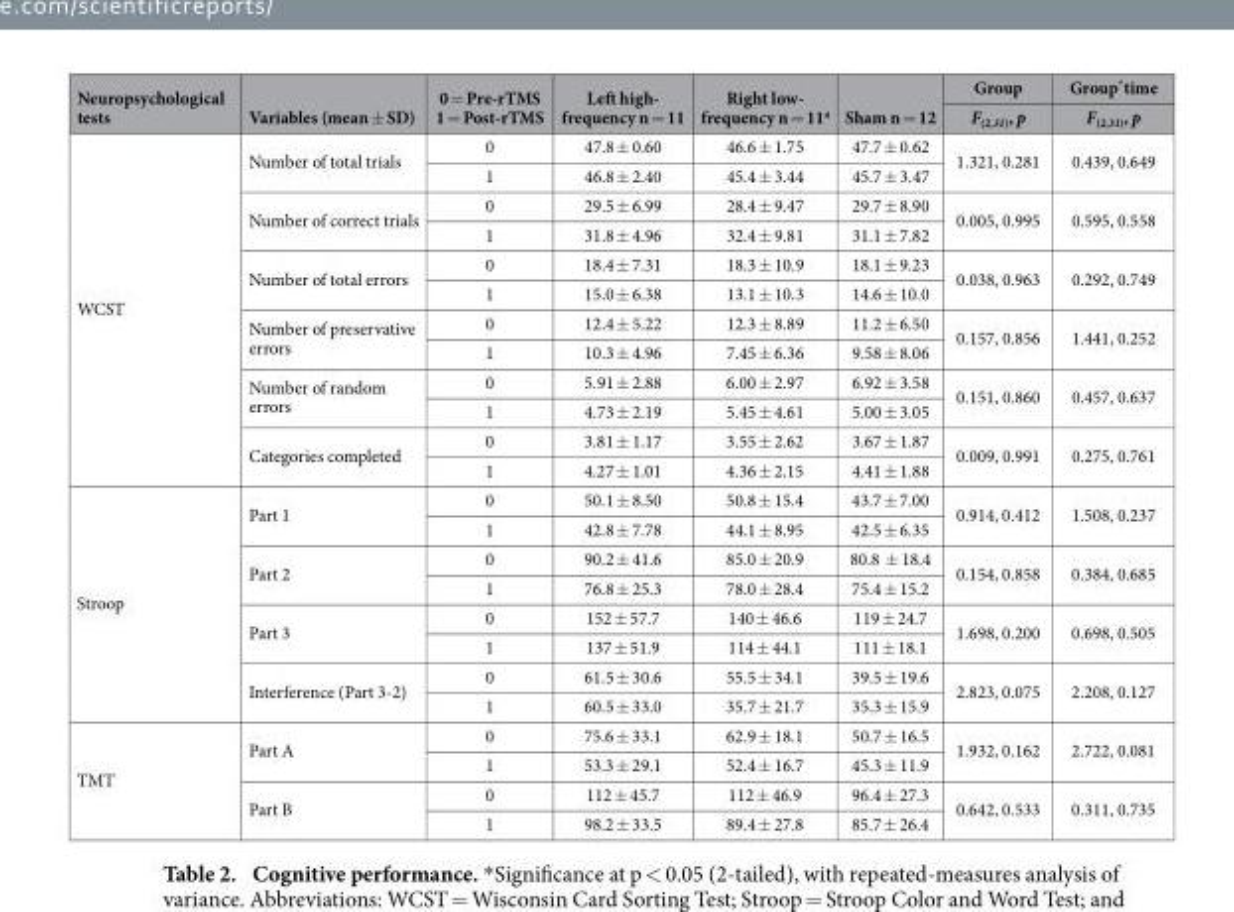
<table><thead><tr><td rowspan="2">Neuropsychological tests</td><td rowspan="2">Variables (mean ± SD)</td><td rowspan="2">0 = Pre-rTMS 1 = Post-rTMS</td><td rowspan="2">Left high- frequency n = 11</td><td rowspan="2">Right low- frequency n = 11<sup>a</sup></td><td rowspan="2">Sham n = 12</td><td rowspan="2">Group F<sub>(2,31)</sub>, p</td><td rowspan="2">Group*time F<sub>(2,31)</sub>, p</td></tr><tr></tr></thead><tbody><tr><td rowspan="12">WCST</td><td rowspan="2">Number of total trials</td><td>0</td><td>47.8 ± 0.60</td><td>46.6 ± 1.75</td><td>47.7 ± 0.62</td><td rowspan="2">1.321, 0.281</td><td rowspan="2">0.439, 0.649</td></tr><tr><td>1</td><td>46.8 ± 2.40</td><td>45.4 ± 3.44</td><td>45.7 ± 3.47</td></tr><tr><td rowspan="2">Number of correct trials</td><td>0</td><td>29.5 ± 6.99</td><td>28.4 ± 9.47</td><td>29.7 ± 8.90</td><td rowspan="2">0.005, 0.995</td><td rowspan="2">0.595, 0.558</td></tr><tr><td>1</td><td>31.8 ± 4.96</td><td>32.4 ± 9.81</td><td>31.1 ± 7.82</td></tr><tr><td rowspan="2">Number of total errors</td><td>0</td><td>18.4 ± 7.31</td><td>18.3 ± 10.9</td><td>18.1 ± 9.23</td><td rowspan="2">0.038, 0.963</td><td rowspan="2">0.292, 0.749</td></tr><tr><td>1</td><td>15.0 ± 6.38</td><td>13.1 ± 10.3</td><td>14.6 ± 10.0</td></tr><tr><td rowspan="2">Number of preservative errors</td><td>0</td><td>12.4 ± 5.22</td><td>12.3 ± 8.89</td><td>11.2 ± 6.50</td><td rowspan="2">0.157, 0.856</td><td rowspan="2">1.441, 0.252</td></tr><tr><td>1</td><td>10.3 ± 4.96</td><td>7.45 ± 6.36</td><td>9.58 ± 8.06</td></tr><tr><td rowspan="2">Number of random errors</td><td>0</td><td>5.91 ± 2.88</td><td>6.00 ± 2.97</td><td>6.92 ± 3.58</td><td rowspan="2">0.151, 0.860</td><td rowspan="2">0.457, 0.637</td></tr><tr><td>1</td><td>4.73 ± 2.19</td><td>5.45 ± 4.61</td><td>5.00 ± 3.05</td></tr><tr><td rowspan="2">Categories completed</td><td>0</td><td>3.81 ± 1.17</td><td>3.55 ± 2.62</td><td>3.67 ± 1.87</td><td rowspan="2">0.009, 0.991</td><td rowspan="2">0.275, 0.761</td></tr><tr><td>1</td><td>4.27 ± 1.01</td><td>4.36 ± 2.15</td><td>4.41 ± 1.88</td></tr><tr><td rowspan="8">Stroop</td><td rowspan="2">Part 1</td><td>0</td><td>50.1 ± 8.50</td><td>50.8 ± 15.4</td><td>43.7 ± 7.00</td><td rowspan="2">0.914, 0.412</td><td rowspan="2">1.508, 0.237</td></tr><tr><td>1</td><td>42.8 ± 7.78</td><td>44.1 ± 8.95</td><td>42.5 ± 6.35</td></tr><tr><td rowspan="2">Part 2</td><td>0</td><td>90.2 ± 41.6</td><td>85.0 ± 20.9</td><td>80.8 ± 18.4</td><td rowspan="2">0.154, 0.858</td><td rowspan="2">0.384, 0.685</td></tr><tr><td>1</td><td>76.8 ± 25.3</td><td>78.0 ± 28.4</td><td>75.4 ± 15.2</td></tr><tr><td rowspan="2">Part 3</td><td>0</td><td>152 ± 57.7</td><td>140 ± 46.6</td><td>119 ± 24.7</td><td rowspan="2">1.698, 0.200</td><td rowspan="2">0.698, 0.505</td></tr><tr><td>1</td><td>137 ± 51.9</td><td>114 ± 44.1</td><td>111 ± 18.1</td></tr><tr><td rowspan="2">Interference (Part 3-2)</td><td>0</td><td>61.5 ± 30.6</td><td>55.5 ± 34.1</td><td>39.5 ± 19.6</td><td rowspan="2">2.823, 0.075</td><td rowspan="2">2.208, 0.127</td></tr><tr><td>1</td><td>60.5 ± 33.0</td><td>35.7 ± 21.7</td><td>35.3 ± 15.9</td></tr><tr><td rowspan="4">TMT</td><td rowspan="2">Part A</td><td>0</td><td>75.6 ± 33.1</td><td>62.9 ± 18.1</td><td>50.7 ± 16.5</td><td rowspan="2">1.932, 0.162</td><td rowspan="2">2.722, 0.081</td></tr><tr><td>1</td><td>53.3 ± 29.1</td><td>52.4 ± 16.7</td><td>45.3 ± 11.9</td></tr><tr><td rowspan="2">Part B</td><td>0</td><td>112 ± 45.7</td><td>112 ± 46.9</td><td>96.4 ± 27.3</td><td rowspan="2">0.642, 0.533</td><td rowspan="2">0.311, 0.735</td></tr><tr><td>1</td><td>98.2 ± 33.5</td><td>89.4 ± 27.8</td><td>85.7 ± 26.4</td></tr></tbody></table>